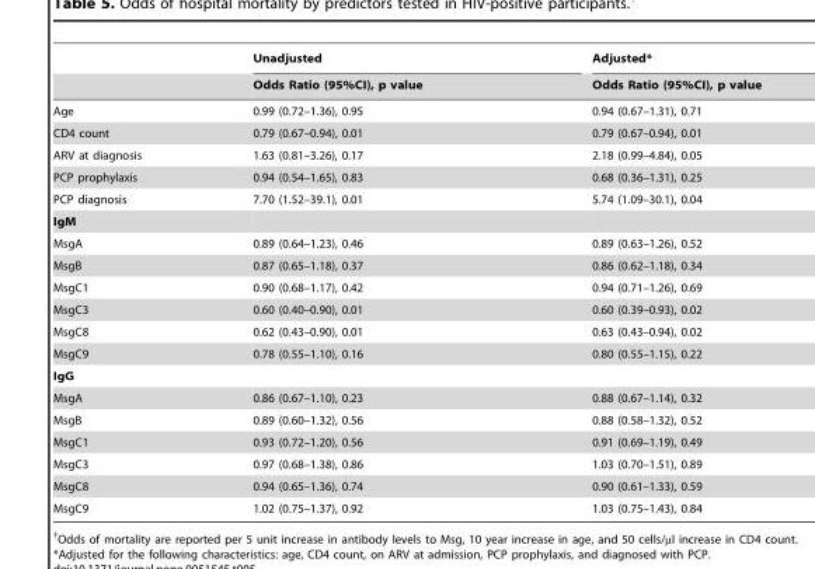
<table><thead><tr><td rowspan="2"></td><td rowspan="2">Unadjusted Odds Ratio (95%CI), p value</td><td rowspan="2">Adjusted* Odds Ratio (95%CI), p value</td></tr><tr></tr></thead><tbody><tr><td>Age</td><td>0.99 (0.72–1.36), 0.95</td><td>0.94 (0.67–1.31), 0.71</td></tr><tr><td>CD4 count</td><td>0.79 (0.67–0.94), 0.01</td><td>0.79 (0.67–0.94), 0.01</td></tr><tr><td>ARV at diagnosis</td><td>1.63 (0.81–3.26), 0.17</td><td>2.18 (0.99–4.84), 0.05</td></tr><tr><td>PCP prophylaxis</td><td>0.94 (0.54–1.65), 0.83</td><td>0.68 (0.36–1.31), 0.25</td></tr><tr><td>PCP diagnosis</td><td>7.70 (1.52–39.1), 0.01</td><td>5.74 (1.09–30.1), 0.04</td></tr><tr><td colspan="3">IgM</td></tr><tr><td>MsgA</td><td>0.89 (0.64–1.23), 0.46</td><td>0.89 (0.63–1.26), 0.52</td></tr><tr><td>MsgB</td><td>0.87 (0.65–1.18), 0.37</td><td>0.86 (0.62–1.18), 0.34</td></tr><tr><td>MsgC1</td><td>0.90 (0.68–1.17), 0.42</td><td>0.94 (0.71–1.26), 0.69</td></tr><tr><td>MsgC3</td><td>0.60 (0.40–0.90), 0.01</td><td>0.60 (0.39–0.93), 0.02</td></tr><tr><td>MsgC8</td><td>0.62 (0.43–0.90), 0.01</td><td>0.63 (0.43–0.94), 0.02</td></tr><tr><td>MsgC9</td><td>0.78 (0.55–1.10), 0.16</td><td>0.80 (0.55–1.15), 0.22</td></tr><tr><td colspan="3">IgG</td></tr><tr><td>MsgA</td><td>0.86 (0.67–1.10), 0.23</td><td>0.88 (0.67–1.14), 0.32</td></tr><tr><td>MsgB</td><td>0.89 (0.60–1.32), 0.56</td><td>0.88 (0.58–1.32), 0.52</td></tr><tr><td>MsgC1</td><td>0.93 (0.72–1.20), 0.56</td><td>0.91 (0.69–1.19), 0.49</td></tr><tr><td>MsgC3</td><td>0.97 (0.68–1.38), 0.86</td><td>1.03 (0.70–1.51), 0.89</td></tr><tr><td>MsgC8</td><td>0.94 (0.65–1.36), 0.74</td><td>0.90 (0.61–1.33), 0.59</td></tr><tr><td>MsgC9</td><td>1.02 (0.75–1.37), 0.92</td><td>1.03 (0.75–1.43), 0.84</td></tr></tbody></table>